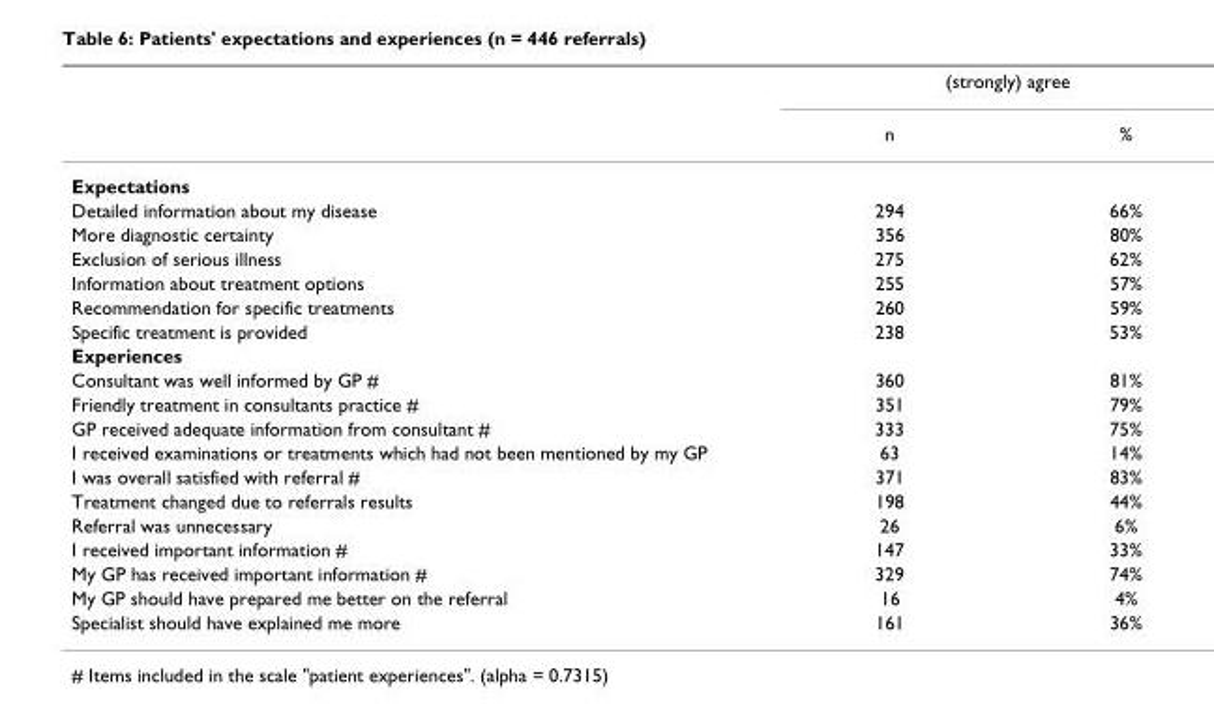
<table><thead><tr><td rowspan="2"></td><td colspan="2">(strongly) agree</td></tr><tr><td>n</td><td>%</td></tr></thead><tbody><tr><td colspan="3">Expectations</td></tr><tr><td>Detailed information about my disease</td><td>294</td><td>66%</td></tr><tr><td>More diagnostic certainty</td><td>356</td><td>80%</td></tr><tr><td>Exclusion of serious illness</td><td>275</td><td>62%</td></tr><tr><td>Information about treatment options</td><td>255</td><td>57%</td></tr><tr><td>Recommendation for specific treatments</td><td>260</td><td>59%</td></tr><tr><td>Specific treatment is provided</td><td>238</td><td>53%</td></tr><tr><td colspan="3">Experiences</td></tr><tr><td>Consultant was well informed by GP #</td><td>360</td><td>81%</td></tr><tr><td>Friendly treatment in consultants practice #</td><td>351</td><td>79%</td></tr><tr><td>GP received adequate information from consultant #</td><td>333</td><td>75%</td></tr><tr><td>I received examinations or treatments which had not been mentioned by my GP</td><td>63</td><td>14%</td></tr><tr><td>I was overall satisfied with referral #</td><td>371</td><td>83%</td></tr><tr><td>Treatment changed due to referrals results</td><td>198</td><td>44%</td></tr><tr><td>Referral was unnecessary</td><td>26</td><td>6%</td></tr><tr><td>I received important information #</td><td>147</td><td>33%</td></tr><tr><td>My GP has received important information #</td><td>329</td><td>74%</td></tr><tr><td>My GP should have prepared me better on the referral</td><td>16</td><td>4%</td></tr><tr><td>Specialist should have explained me more</td><td>161</td><td>36%</td></tr></tbody></table>